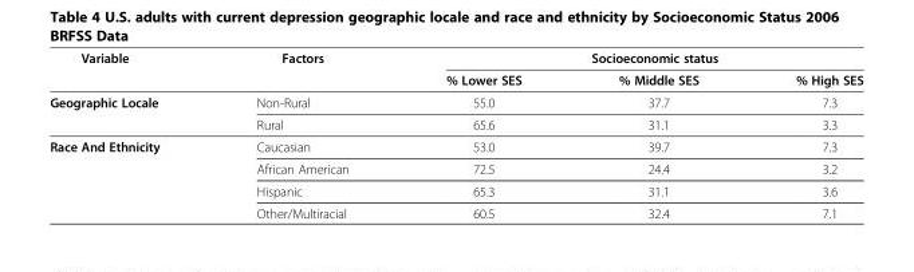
<table><thead><tr><td rowspan="2">Variable</td><td rowspan="2">Factors</td><td colspan="3">Socioeconomic status</td></tr><tr><td>% Lower SES</td><td>% Middle SES</td><td>% High SES</td></tr></thead><tbody><tr><td rowspan="2">Geographic Locale</td><td>Non-Rural</td><td>55.0</td><td>37.7</td><td>7.3</td></tr><tr><td>Rural</td><td>65.6</td><td>31.1</td><td>3.3</td></tr><tr><td rowspan="4">Race And Ethnicity</td><td>Caucasian</td><td>53.0</td><td>39.7</td><td>7.3</td></tr><tr><td>African American</td><td>72.5</td><td>24.4</td><td>3.2</td></tr><tr><td>Hispanic</td><td>65.3</td><td>31.1</td><td>3.6</td></tr><tr><td>Other/Multiracial</td><td>60.5</td><td>32.4</td><td>7.1</td></tr></tbody></table>